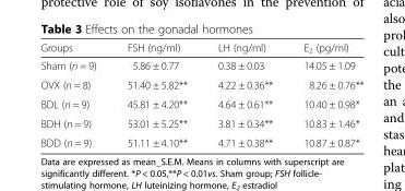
<table><thead><tr><td>Groups</td><td>FSH (ng/ml)</td><td>LH (ng/ml)</td><td>E<sub>2</sub> (pg/ml)</td></tr></thead><tbody><tr><td>Sham (n = 9)</td><td>5.86 ± 0.77</td><td>0.38 ± 0.03</td><td>14.05 ± 1.09</td></tr><tr><td>OVX (n = 8)</td><td>51.40 ± 5.82**</td><td>4.22 ± 0.36**</td><td>8.26 ± 0.76**</td></tr><tr><td>BDL (n = 9)</td><td>45.81 ± 4.20**</td><td>4.64 ± 0.61**</td><td>10.40 ± 0.98*</td></tr><tr><td>BDH (n = 9)</td><td>53.01 ± 5.25**</td><td>3.81 ± 0.34**</td><td>10.83 ± 1.46*</td></tr><tr><td>BDD (n = 9)</td><td>51.11 ± 4.10**</td><td>4.71 ± 0.38**</td><td>10.87 ± 0.87*</td></tr></tbody></table>